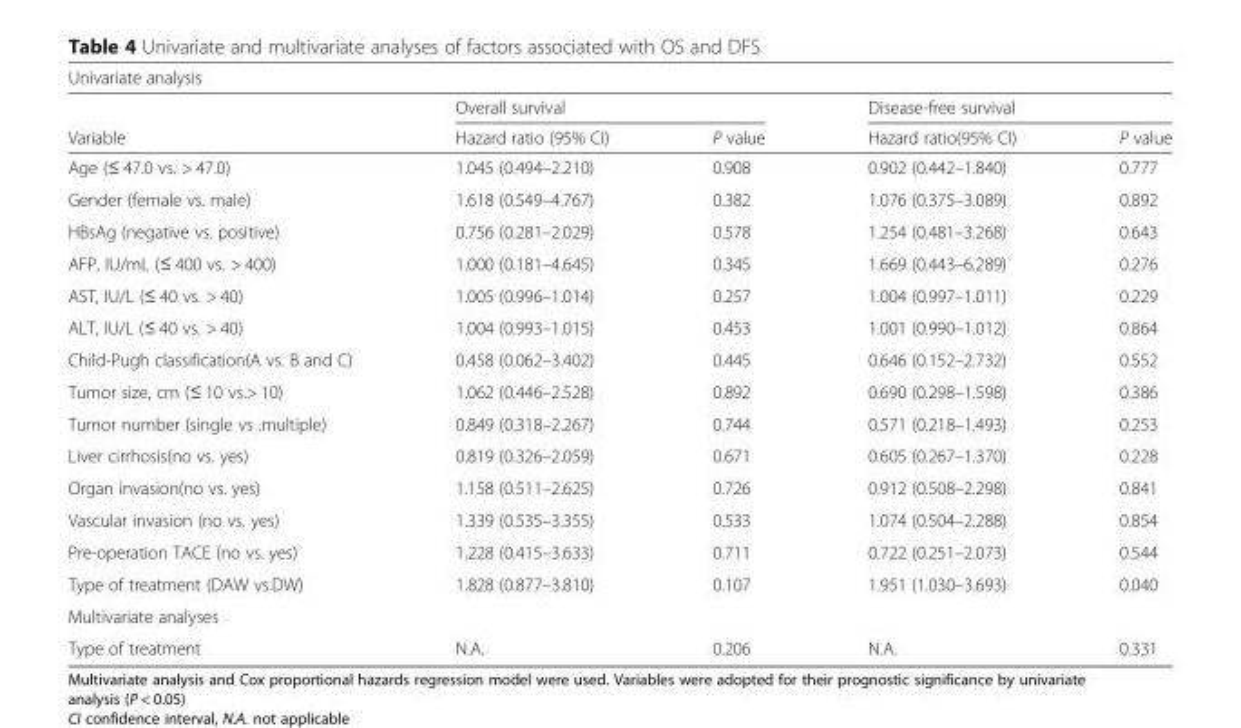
<table><thead><tr><td colspan="5">Univariate analysis</td></tr><tr><td rowspan="2">Variable</td><td colspan="2">Overall survival</td><td colspan="2">Disease-free survival</td></tr><tr><td>Hazard ratio (95% CI)</td><td>P value</td><td>Hazard ratio(95% CI)</td><td>P value</td></tr></thead><tbody><tr><td>Age (≤ 47.0 vs. &gt; 47.0)</td><td>1.045 (0.494–2.210)</td><td>0.908</td><td>0.902 (0.442–1.840)</td><td>0.777</td></tr><tr><td>Gender (female vs. male)</td><td>1.618 (0.549–4.767)</td><td>0.382</td><td>1.076 (0.375–3.089)</td><td>0.892</td></tr><tr><td>HBsAg (negative vs. positive)</td><td>0.756 (0.281–2.029)</td><td>0.578</td><td>1.254 (0.481–3.268)</td><td>0.643</td></tr><tr><td>AFP, IU/mL (≤ 400 vs. &gt; 400)</td><td>1.000 (0.181–4.645)</td><td>0.345</td><td>1.669 (0.443–6.289)</td><td>0.276</td></tr><tr><td>AST, IU/L (≤ 40 vs. &gt; 40)</td><td>1.005 (0.996–1.014)</td><td>0.257</td><td>1.004 (0.997–1.011)</td><td>0.229</td></tr><tr><td>ALT, IU/L (≤ 40 vs. &gt; 40)</td><td>1.004 (0.993–1.015)</td><td>0.453</td><td>1.001 (0.990–1.012)</td><td>0.864</td></tr><tr><td>Child-Pugh classification(A vs. B and C)</td><td>0.458 (0.062–3.402)</td><td>0.445</td><td>0.646 (0.152–2.732)</td><td>0.552</td></tr><tr><td>Tumor size, cm (≤ 10 vs.&gt; 10)</td><td>1.062 (0.446–2.528)</td><td>0.892</td><td>0.690 (0.298–1.598)</td><td>0.386</td></tr><tr><td>Tumor number (single vs .multiple)</td><td>0.849 (0.318–2.267)</td><td>0.744</td><td>0.571 (0.218–1.493)</td><td>0.253</td></tr><tr><td>Liver cirrhosis(no vs. yes)</td><td>0.819 (0.326–2.059)</td><td>0.671</td><td>0.605 (0.267–1.370)</td><td>0.228</td></tr><tr><td>Organ invasion(no vs. yes)</td><td>1.158 (0.511–2.625)</td><td>0.726</td><td>0.912 (0.508–2.298)</td><td>0.841</td></tr><tr><td>Vascular invasion (no vs. yes)</td><td>1.339 (0.535–3.355)</td><td>0.533</td><td>1.074 (0.504–2.288)</td><td>0.854</td></tr><tr><td>Pre-operation TACE (no vs. yes)</td><td>1.228 (0.415–3.633)</td><td>0.711</td><td>0.722 (0.251–2.073)</td><td>0.544</td></tr><tr><td>Type of treatment (DAW vs.DW)</td><td>1.828 (0.877–3.810)</td><td>0.107</td><td>1.951 (1.030–3.693)</td><td>0.040</td></tr><tr><td colspan="5">Multivariate analyses</td></tr><tr><td>Type of treatment</td><td>N.A.</td><td>0.206</td><td>N.A.</td><td>0.331</td></tr></tbody></table>